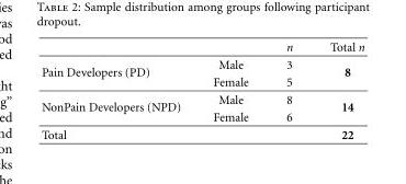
<table><thead><tr><td></td><td></td><td>n</td><td>Total n</td></tr></thead><tbody><tr><td rowspan="2">Pain Developers (PD)</td><td>Male</td><td>3</td><td rowspan="2">8</td></tr><tr><td>Female</td><td>5</td></tr><tr><td rowspan="2">NonPain Developers (NPD)</td><td>Male</td><td>8</td><td rowspan="2">14</td></tr><tr><td>Female</td><td>6</td></tr><tr><td>Total</td><td></td><td></td><td>22</td></tr></tbody></table>